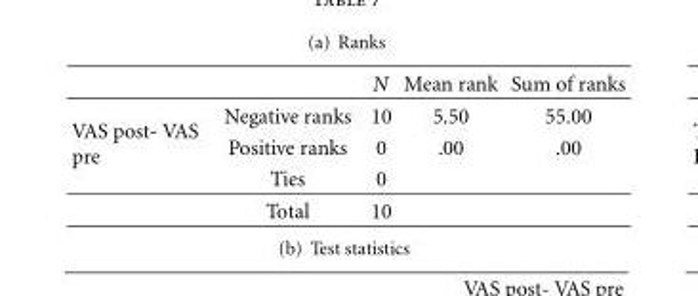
<table><thead><tr><td></td><td></td><td>N</td><td>Mean rank</td><td>Sum of ranks</td></tr></thead><tbody><tr><td rowspan="4">VAS post- VAS pre</td><td>Negative ranks</td><td>10</td><td>5.50</td><td>55.00</td></tr><tr><td>Positive ranks</td><td>0</td><td>.00</td><td>.00</td></tr><tr><td>Ties</td><td>0</td><td></td><td></td></tr><tr><td>Total</td><td>10</td><td></td><td></td></tr></tbody></table>